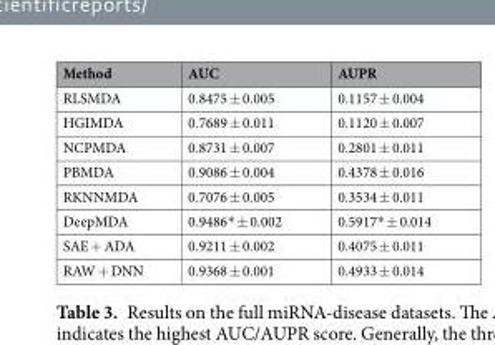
<table><thead><tr><td>Method</td><td>AUC</td><td>AUPR</td></tr></thead><tbody><tr><td>RLSMDA</td><td>0.8475 ± 0.005</td><td>0.1157 ± 0.004</td></tr><tr><td>HGIMDA</td><td>0.7689 ± 0.011</td><td>0.1120 ± 0.007</td></tr><tr><td>NCPMDA</td><td>0.8731 ± 0.007</td><td>0.2801 ± 0.011</td></tr><tr><td>PBMDA</td><td>0.9086 ± 0.004</td><td>0.4378 ± 0.016</td></tr><tr><td>RKNNMDA</td><td>0.7076 ± 0.005</td><td>0.3534 ± 0.011</td></tr><tr><td>DeepMDA</td><td>0.9486* ± 0.002</td><td>0.5917* ± 0.014</td></tr><tr><td>SAE + ADA</td><td>0.9211 ± 0.002</td><td>0.4075 ± 0.011</td></tr><tr><td>RAW + DNN</td><td>0.9368 ± 0.001</td><td>0.4933 ± 0.014</td></tr></tbody></table>